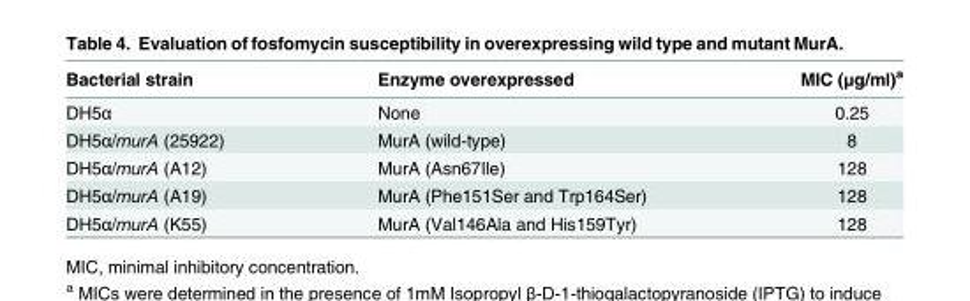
<table><thead><tr><td>Bacterial strain</td><td>Enzyme overexpressed</td><td>MIC (μg/ml)<sup>a</sup></td></tr></thead><tbody><tr><td>DH5α</td><td>None</td><td>0.25</td></tr><tr><td>DH5α/murA (25922)</td><td>MurA (wild-type)</td><td>8</td></tr><tr><td>DH5α/murA (A12)</td><td>MurA (Asn67Ile)</td><td>128</td></tr><tr><td>DH5α/murA (A19)</td><td>MurA (Phe151Ser and Trp164Ser)</td><td>128</td></tr><tr><td>DH5α/murA (K55)</td><td>MurA (Val146Ala and His159Tyr)</td><td>128</td></tr></tbody></table>